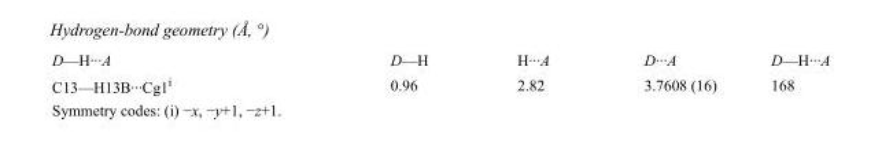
<table><tbody><tr><td>D—H···A</td><td>D—H</td><td>H···A</td><td>D···A</td><td>D—H···A</td></tr><tr><td>C13—H13B···Cg1<sup>i</sup></td><td>0.96</td><td>2.82</td><td>3.7608 (16)</td><td>168</td></tr></tbody></table>